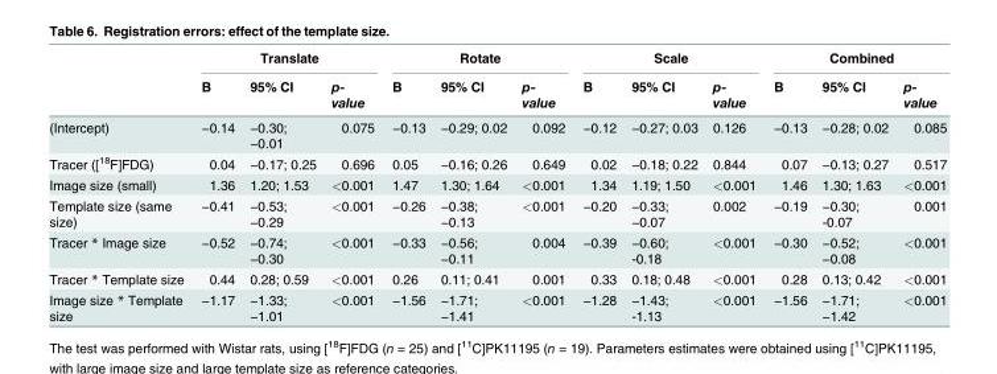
<table><thead><tr><td rowspan="2"></td><td colspan="3">Translate</td><td colspan="3">Rotate</td><td colspan="3">Scale</td><td colspan="3">Combined</td></tr><tr><td>B</td><td>95% CI</td><td>p- value</td><td>B</td><td>95% CI</td><td>p- value</td><td>B</td><td>95% CI</td><td>p- value</td><td>B</td><td>95% CI</td><td>p- value</td></tr></thead><tbody><tr><td>(Intercept)</td><td>−0.14</td><td>−0.30; −0.01</td><td>0.075</td><td>−0.13</td><td>−0.29; 0.02</td><td>0.092</td><td>−0.12</td><td>−0.27; 0.03</td><td>0.126</td><td>−0.13</td><td>−0.28; 0.02</td><td>0.085</td></tr><tr><td>Tracer ([<sup>18</sup>F]FDG)</td><td>0.04</td><td>−0.17; 0.25</td><td>0.696</td><td>0.05</td><td>−0.16; 0.26</td><td>0.649</td><td>0.02</td><td>−0.18; 0.22</td><td>0.844</td><td>0.07</td><td>−0.13; 0.27</td><td>0.517</td></tr><tr><td>Image size (small)</td><td>1.36</td><td>1.20; 1.53</td><td>&lt;0.001</td><td>1.47</td><td>1.30; 1.64</td><td>&lt;0.001</td><td>1.34</td><td>1.19; 1.50</td><td>&lt;0.001</td><td>1.46</td><td>1.30; 1.63</td><td>&lt;0.001</td></tr><tr><td>Template size (same size)</td><td>−0.41</td><td>−0.53; −0.29</td><td>&lt;0.001</td><td>−0.26</td><td>−0.38; −0.13</td><td>&lt;0.001</td><td>−0.20</td><td>−0.33; −0.07</td><td>0.002</td><td>−0.19</td><td>−0.30; -0.07</td><td>0.001</td></tr><tr><td>Tracer * Image size</td><td>−0.52</td><td>−0.74; −0.30</td><td>&lt;0.001</td><td>−0.33</td><td>−0.56; −0.11</td><td>0.004</td><td>−0.39</td><td>−0.60; -0.18</td><td>&lt;0.001</td><td>−0.30</td><td>−0.52; −0.08</td><td>&lt;0.001</td></tr><tr><td>Tracer * Template size</td><td>0.44</td><td>0.28; 0.59</td><td>&lt;0.001</td><td>0.26</td><td>0.11; 0.41</td><td>0.001</td><td>0.33</td><td>0.18; 0.48</td><td>&lt;0.001</td><td>0.28</td><td>0.13; 0.42</td><td>&lt;0.001</td></tr><tr><td>Image size * Template size</td><td>−1.17</td><td>−1.33; −1.01</td><td>&lt;0.001</td><td>−1.56</td><td>−1.71; −1.41</td><td>&lt;0.001</td><td>−1.28</td><td>−1.43; -1.13</td><td>&lt;0.001</td><td>−1.56</td><td>−1.71; −1.42</td><td>&lt;0.001</td></tr></tbody></table>